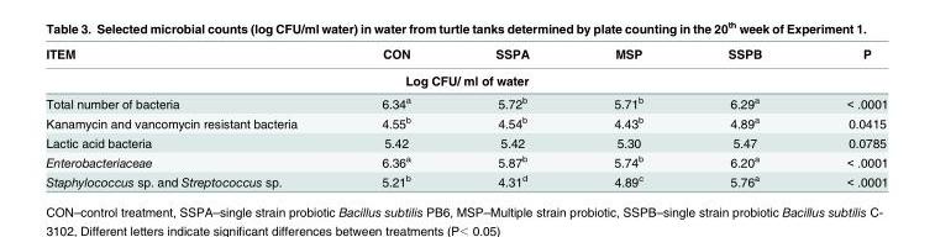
<table><thead><tr><td>ITEM</td><td>CON</td><td>SSPA</td><td>MSP</td><td>SSPB</td><td>P</td></tr><tr><td colspan="6">Log CFU/ ml of water</td></tr></thead><tbody><tr><td>Total number of bacteria</td><td>6.34<sup>a</sup></td><td>5.72<sup>b</sup></td><td>5.71<sup>b</sup></td><td>6.29<sup>a</sup></td><td>&lt; .0001</td></tr><tr><td>Kanamycin and vancomycin resistant bacteria</td><td>4.55<sup>b</sup></td><td>4.54<sup>b</sup></td><td>4.43<sup>b</sup></td><td>4.89<sup>a</sup></td><td>0.0415</td></tr><tr><td>Lactic acid bacteria</td><td>5.42</td><td>5.42</td><td>5.30</td><td>5.47</td><td>0.0785</td></tr><tr><td>Enterobacteriaceae</td><td>6.36<sup>a</sup></td><td>5.87<sup>b</sup></td><td>5.74<sup>b</sup></td><td>6.20<sup>a</sup></td><td>&lt; .0001</td></tr><tr><td>Staphylococcus sp. and Streptococcus sp.</td><td>5.21<sup>b</sup></td><td>4.31<sup>d</sup></td><td>4.89<sup>c</sup></td><td>5.76<sup>a</sup></td><td>&lt; .0001</td></tr></tbody></table>